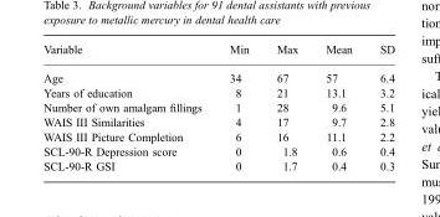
<table><thead><tr><td>Variable</td><td>Min</td><td>Max</td><td>Mean</td><td>SD</td></tr></thead><tbody><tr><td>Age</td><td>34</td><td>67</td><td>57</td><td>6.4</td></tr><tr><td>Years of education</td><td>8</td><td>21</td><td>13.1</td><td>3.2</td></tr><tr><td>Number of own amalgam fillings</td><td>1</td><td>28</td><td>9.6</td><td>5.1</td></tr><tr><td>WAIS III Similarities</td><td>4</td><td>17</td><td>9.7</td><td>2.8</td></tr><tr><td>WAIS III Picture Completion</td><td>6</td><td>16</td><td>11.1</td><td>2.2</td></tr><tr><td>SCL-90-R Depression score</td><td>0</td><td>1.8</td><td>0.6</td><td>0.4</td></tr><tr><td>SCL-90-R GSI</td><td>0</td><td>1.7</td><td>0.4</td><td>0.3</td></tr></tbody></table>